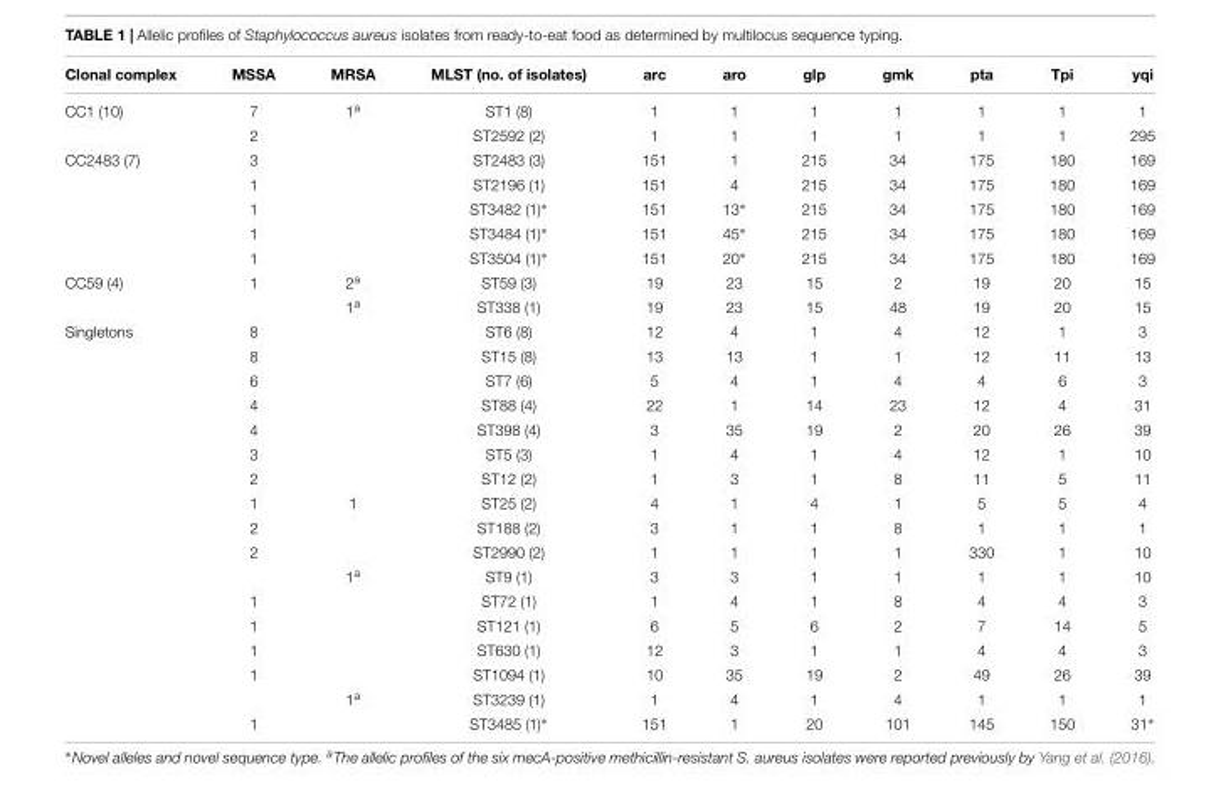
<table><thead><tr><td>Clonal complex</td><td>MSSA</td><td>MRSA</td><td>MLST (no. of isolates)</td><td>arc</td><td>aro</td><td>glp</td><td>gmk</td><td>pta</td><td>Tpi</td><td>yqi</td></tr></thead><tbody><tr><td rowspan="2">CC1 (10)</td><td>7</td><td>1<sup>a</sup></td><td>ST1 (8)</td><td>1</td><td>1</td><td>1</td><td>1</td><td>1</td><td>1</td><td>1</td></tr><tr><td>2</td><td></td><td>ST2592 (2)</td><td>1</td><td>1</td><td>1</td><td>1</td><td>1</td><td>1</td><td>295</td></tr><tr><td rowspan="5">CC2483 (7)</td><td>3</td><td></td><td>ST2483 (3)</td><td>151</td><td>1</td><td>215</td><td>34</td><td>175</td><td>180</td><td>169</td></tr><tr><td>1</td><td></td><td>ST2196 (1)</td><td>151</td><td>4</td><td>215</td><td>34</td><td>175</td><td>180</td><td>169</td></tr><tr><td>1</td><td></td><td>ST3482 (1)∗</td><td>151</td><td>13∗</td><td>215</td><td>34</td><td>175</td><td>180</td><td>169</td></tr><tr><td>1</td><td></td><td>ST3484 (1)∗</td><td>151</td><td>45∗</td><td>215</td><td>34</td><td>175</td><td>180</td><td>169</td></tr><tr><td>1</td><td></td><td>ST3504 (1)∗</td><td>151</td><td>20∗</td><td>215</td><td>34</td><td>175</td><td>180</td><td>169</td></tr><tr><td rowspan="2">CC59 (4)</td><td>1</td><td>2<sup>a</sup></td><td>ST59 (3)</td><td>19</td><td>23</td><td>15</td><td>2</td><td>19</td><td>20</td><td>15</td></tr><tr><td></td><td>1<sup>a</sup></td><td>ST338 (1)</td><td>19</td><td>23</td><td>15</td><td>48</td><td>19</td><td>20</td><td>15</td></tr><tr><td rowspan="17">Singletons</td><td>8</td><td></td><td>ST6 (8)</td><td>12</td><td>4</td><td>1</td><td>4</td><td>12</td><td>1</td><td>3</td></tr><tr><td>8</td><td></td><td>ST15 (8)</td><td>13</td><td>13</td><td>1</td><td>1</td><td>12</td><td>11</td><td>13</td></tr><tr><td>6</td><td></td><td>ST7 (6)</td><td>5</td><td>4</td><td>1</td><td>4</td><td>4</td><td>6</td><td>3</td></tr><tr><td>4</td><td></td><td>ST88 (4)</td><td>22</td><td>1</td><td>14</td><td>23</td><td>12</td><td>4</td><td>31</td></tr><tr><td>4</td><td></td><td>ST398 (4)</td><td>3</td><td>35</td><td>19</td><td>2</td><td>20</td><td>26</td><td>39</td></tr><tr><td>3</td><td></td><td>ST5 (3)</td><td>1</td><td>4</td><td>1</td><td>4</td><td>12</td><td>1</td><td>10</td></tr><tr><td>2</td><td></td><td>ST12 (2)</td><td>1</td><td>3</td><td>1</td><td>8</td><td>11</td><td>5</td><td>11</td></tr><tr><td>1</td><td>1</td><td>ST25 (2)</td><td>4</td><td>1</td><td>4</td><td>1</td><td>5</td><td>5</td><td>4</td></tr><tr><td>2</td><td></td><td>ST188 (2)</td><td>3</td><td>1</td><td>1</td><td>8</td><td>1</td><td>1</td><td>1</td></tr><tr><td>2</td><td></td><td>ST2990 (2)</td><td>1</td><td>1</td><td>1</td><td>1</td><td>330</td><td>1</td><td>10</td></tr><tr><td></td><td>1<sup>a</sup></td><td>ST9 (1)</td><td>3</td><td>3</td><td>1</td><td>1</td><td>1</td><td>1</td><td>10</td></tr><tr><td>1</td><td></td><td>ST72 (1)</td><td>1</td><td>4</td><td>1</td><td>8</td><td>4</td><td>4</td><td>3</td></tr><tr><td>1</td><td></td><td>ST121 (1)</td><td>6</td><td>5</td><td>6</td><td>2</td><td>7</td><td>14</td><td>5</td></tr><tr><td>1</td><td></td><td>ST630 (1)</td><td>12</td><td>3</td><td>1</td><td>1</td><td>4</td><td>4</td><td>3</td></tr><tr><td>1</td><td></td><td>ST1094 (1)</td><td>10</td><td>35</td><td>19</td><td>2</td><td>49</td><td>26</td><td>39</td></tr><tr><td></td><td>1<sup>a</sup></td><td>ST3239 (1)</td><td>1</td><td>4</td><td>1</td><td>4</td><td>1</td><td>1</td><td>1</td></tr><tr><td>1</td><td></td><td>ST3485 (1)∗</td><td>151</td><td>1</td><td>20</td><td>101</td><td>145</td><td>150</td><td>31∗</td></tr></tbody></table>